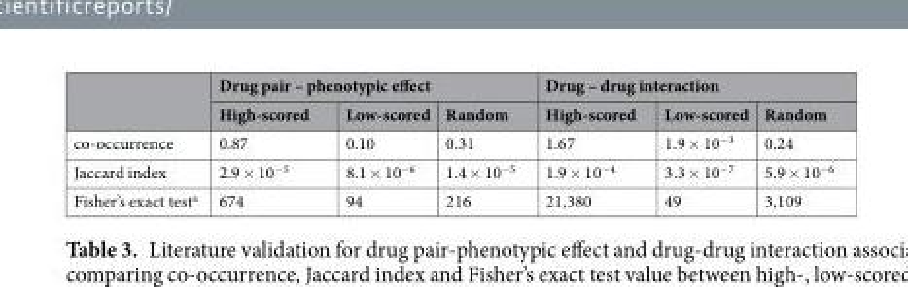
<table><thead><tr><td rowspan="2"></td><td colspan="3">Drug pair – phenotypic effect</td><td colspan="3">Drug – drug interaction</td></tr><tr><td>High-scored</td><td>Low-scored</td><td>Random</td><td>High-scored</td><td>Low-scored</td><td>Random</td></tr></thead><tbody><tr><td>co-occurrence</td><td>0.87</td><td>0.10</td><td>0.31</td><td>1.67</td><td>1.9 × 10<sup>−3</sup></td><td>0.24</td></tr><tr><td>Jaccard index</td><td>2.9 × 10<sup>−5</sup></td><td>8.1 × 10<sup>−6</sup></td><td>1.4 × 10<sup>−5</sup></td><td>1.9 × 10<sup>−4</sup></td><td>3.3 × 10<sup>−7</sup></td><td>5.9 × 10<sup>−6</sup></td></tr><tr><td>Fisher’s exact test<sup>a</sup></td><td>674</td><td>94</td><td>216</td><td>21,380</td><td>49</td><td>3,109</td></tr></tbody></table>